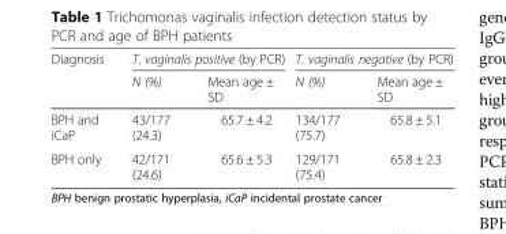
<table><thead><tr><td rowspan="2">Diagnosis</td><td colspan="2">T. vaginalis positive (by PCR)</td><td colspan="2">T. vaginalis negative (by PCR)</td></tr><tr><td>N (%)</td><td>Mean age ± SD</td><td>N (%)</td><td>Mean age ± SD</td></tr></thead><tbody><tr><td>BPH and iCaP</td><td>43/177 (24.3)</td><td>65.7 ± 4.2</td><td>134/177 (75.7)</td><td>65.8 ± 5.1</td></tr><tr><td>BPH only</td><td>42/171 (24.6)</td><td>65.6 ± 5.3</td><td>129/171 (75.4)</td><td>65.8 ± 2.3</td></tr></tbody></table>